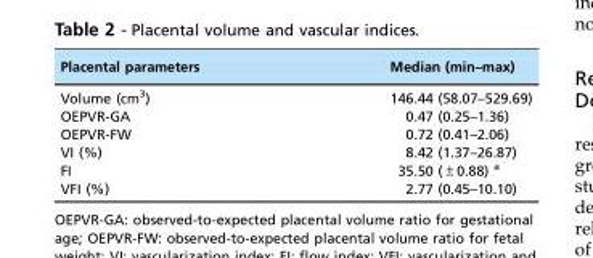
<table><thead><tr><td>Placental parameters</td><td>Median (min–max)</td></tr></thead><tbody><tr><td>Volume (cm<sup>3</sup>)</td><td>146.44 (58.07–529.69)</td></tr><tr><td>OEPVR-GA</td><td>0.47 (0.25–1.36)</td></tr><tr><td>OEPVR-FW</td><td>0.72 (0.41–2.06)</td></tr><tr><td>VI (%)</td><td>8.42 (1.37–26.87)</td></tr><tr><td>FI</td><td>35.50 (±0.88) <sup>a</sup></td></tr><tr><td>VFI (%)</td><td>2.77 (0.45–10.10)</td></tr></tbody></table>